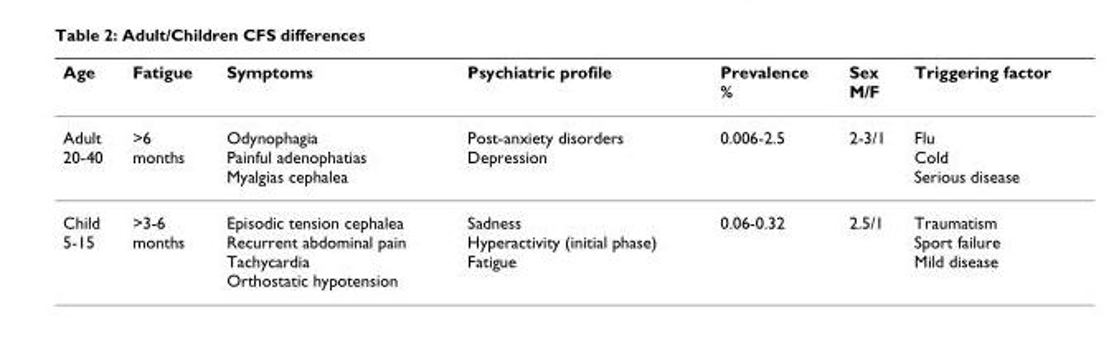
<table><thead><tr><td>Age</td><td>Fatigue</td><td>Symptoms</td><td>Psychiatric profile</td><td>Prevalence %</td><td>Sex M/F</td><td>Triggering factor</td></tr></thead><tbody><tr><td>Adult 20-40</td><td>&gt;6 months</td><td>Odynophagia Painful adenophatias Myalgias cephalea</td><td>Post-anxiety disorders Depression</td><td>0.006-2.5</td><td>2-3/1</td><td>Flu Cold Serious disease</td></tr><tr><td>Child 5-15</td><td>&gt;3-6 months</td><td>Episodic tension cephalea Recurrent abdominal pain Tachycardia Orthostatic hypotension</td><td>Sadness Hyperactivity (initial phase) Fatigue</td><td>0.06-0.32</td><td>2.5/1</td><td>Traumatism Sport failure Mild disease</td></tr></tbody></table>